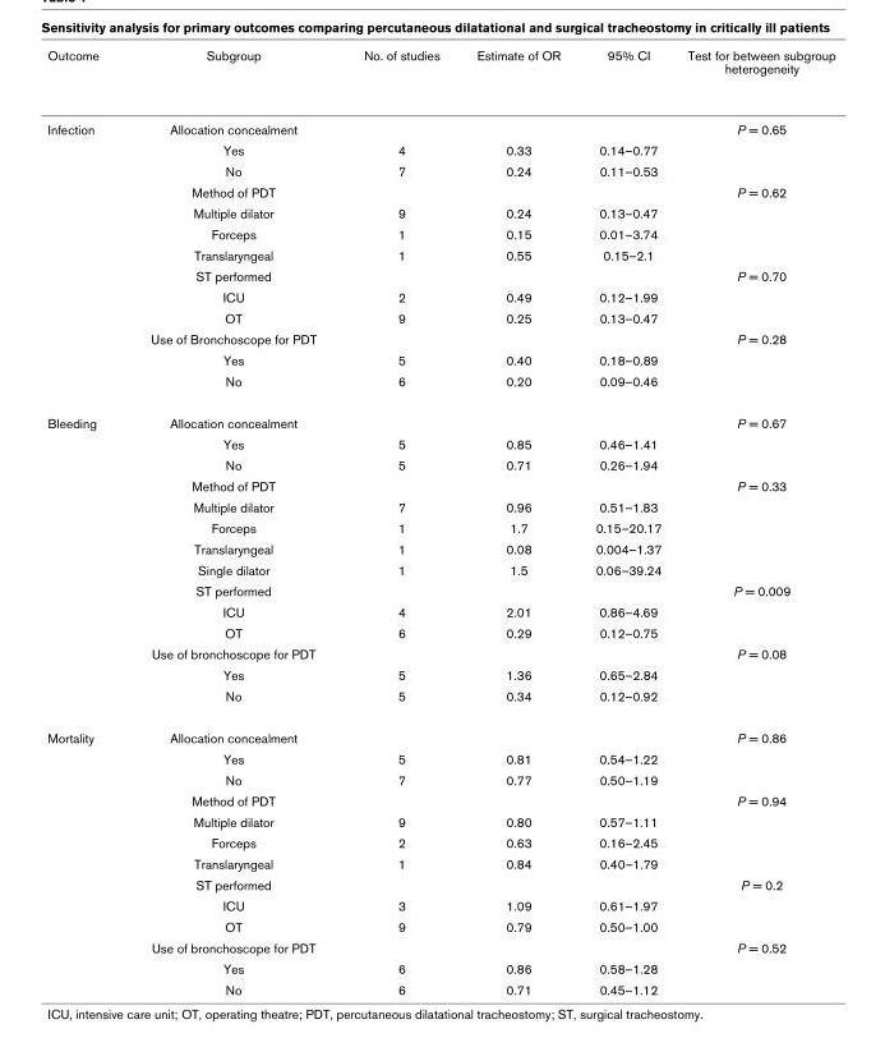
<table><thead><tr><td>Outcome</td><td>Subgroup</td><td>No. of studies</td><td>Estimate of OR</td><td>95% CI</td><td>Test for between subgroup heterogeneity</td></tr></thead><tbody><tr><td rowspan="13">Infection</td><td>Allocation concealment</td><td></td><td></td><td></td><td>P = 0.65</td></tr><tr><td>Yes</td><td>4</td><td>0.33</td><td>0.14–0.77</td><td></td></tr><tr><td>No</td><td>7</td><td>0.24</td><td>0.11–0.53</td><td></td></tr><tr><td>Method of PDT</td><td></td><td></td><td></td><td>P = 0.62</td></tr><tr><td>Multiple dilator</td><td>9</td><td>0.24</td><td>0.13–0.47</td><td></td></tr><tr><td>Forceps</td><td>1</td><td>0.15</td><td>0.01–3.74</td><td></td></tr><tr><td>Translaryngeal</td><td>1</td><td>0.55</td><td>0.15–2.1</td><td></td></tr><tr><td>ST performed</td><td></td><td></td><td></td><td>P = 0.70</td></tr><tr><td>ICU</td><td>2</td><td>0.49</td><td>0.12–1.99</td><td></td></tr><tr><td>OT</td><td>9</td><td>0.25</td><td>0.13–0.47</td><td></td></tr><tr><td>Use of Bronchoscope for PDT</td><td></td><td></td><td></td><td>P = 0.28</td></tr><tr><td>Yes</td><td>5</td><td>0.40</td><td>0.18–0.89</td><td></td></tr><tr><td>No</td><td>6</td><td>0.20</td><td>0.09–0.46</td><td></td></tr><tr><td rowspan="14">Bleeding</td><td>Allocation concealment</td><td></td><td></td><td></td><td>P = 0.67</td></tr><tr><td>Yes</td><td>5</td><td>0.85</td><td>0.46–1.41</td><td></td></tr><tr><td>No</td><td>5</td><td>0.71</td><td>0.26–1.94</td><td></td></tr><tr><td>Method of PDT</td><td></td><td></td><td></td><td>P = 0.33</td></tr><tr><td>Multiple dilator</td><td>7</td><td>0.96</td><td>0.51–1.83</td><td></td></tr><tr><td>Forceps</td><td>1</td><td>1.7</td><td>0.15–20.17</td><td></td></tr><tr><td>Translaryngeal</td><td>1</td><td>0.08</td><td>0.004–1.37</td><td></td></tr><tr><td>Single dilator</td><td>1</td><td>1.5</td><td>0.06–39.24</td><td></td></tr><tr><td>ST performed</td><td></td><td></td><td></td><td>P = 0.009</td></tr><tr><td>ICU</td><td>4</td><td>2.01</td><td>0.86–4.69</td><td></td></tr><tr><td>OT</td><td>6</td><td>0.29</td><td>0.12–0.75</td><td></td></tr><tr><td>Use of bronchoscope for PDT</td><td></td><td></td><td></td><td>P = 0.08</td></tr><tr><td>Yes</td><td>5</td><td>1.36</td><td>0.65–2.84</td><td></td></tr><tr><td>No</td><td>5</td><td>0.34</td><td>0.12–0.92</td><td></td></tr><tr><td rowspan="13">Mortality</td><td>Allocation concealment</td><td></td><td></td><td></td><td>P = 0.86</td></tr><tr><td>Yes</td><td>5</td><td>0.81</td><td>0.54–1.22</td><td></td></tr><tr><td>No</td><td>7</td><td>0.77</td><td>0.50–1.19</td><td></td></tr><tr><td>Method of PDT</td><td></td><td></td><td></td><td>P = 0.94</td></tr><tr><td>Multiple dilator</td><td>9</td><td>0.80</td><td>0.57–1.11</td><td></td></tr><tr><td>Forceps</td><td>2</td><td>0.63</td><td>0.16–2.45</td><td></td></tr><tr><td>Translaryngeal</td><td>1</td><td>0.84</td><td>0.40–1.79</td><td></td></tr><tr><td>ST performed</td><td></td><td></td><td></td><td>P = 0.2</td></tr><tr><td>ICU</td><td>3</td><td>1.09</td><td>0.61–1.97</td><td></td></tr><tr><td>OT</td><td>9</td><td>0.79</td><td>0.50–1.00</td><td></td></tr><tr><td>Use of bronchoscope for PDT</td><td></td><td></td><td></td><td>P = 0.52</td></tr><tr><td>Yes</td><td>6</td><td>0.86</td><td>0.58–1.28</td><td></td></tr><tr><td>No</td><td>6</td><td>0.71</td><td>0.45–1.12</td><td></td></tr></tbody></table>